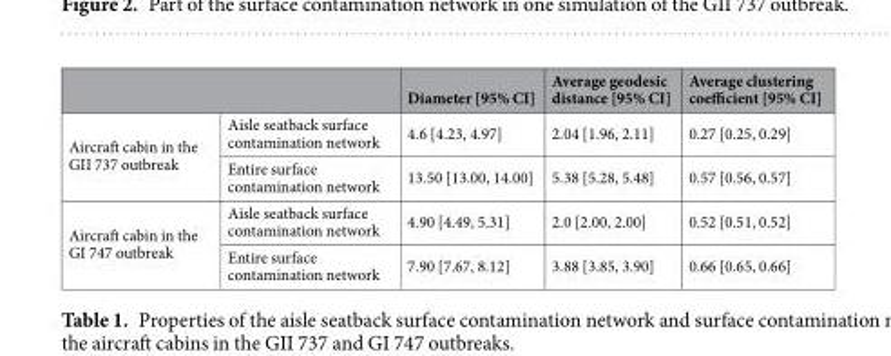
<table><thead><tr><td></td><td></td><td>Diameter [95% CI]</td><td>Average geodesic distance [95% CI]</td><td>Average clustering coefficient [95% CI]</td></tr></thead><tbody><tr><td rowspan="2">Aircraft cabin in the GII 737 outbreak</td><td>Aisle seatback surface contamination network</td><td>4.6 [4.23, 4.97]</td><td>2.04 [1.96, 2.11]</td><td>0.27 [0.25, 0.29]</td></tr><tr><td>Entire surface contamination network</td><td>13.50 [13.00, 14.00]</td><td>5.38 [5.28, 5.48]</td><td>0.57 [0.56, 0.57]</td></tr><tr><td rowspan="2">Aircraft cabin in the GI 747 outbreak</td><td>Aisle seatback surface contamination network</td><td>4.90 [4.49, 5.31]</td><td>2.0 [2.00, 2.00]</td><td>0.52 [0.51, 0.52]</td></tr><tr><td>Entire surface contamination network</td><td>7.90 [7.67, 8.12]</td><td>3.88 [3.85, 3.90]</td><td>0.66 [0.65, 0.66]</td></tr></tbody></table>